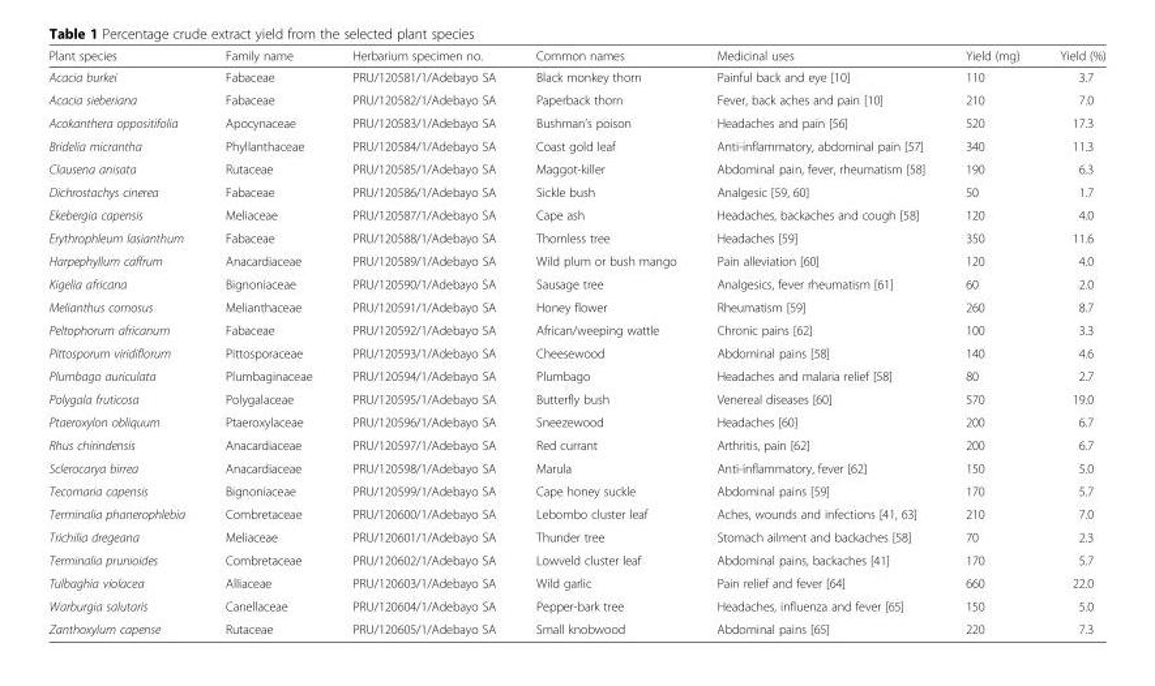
<table><thead><tr><td>Plant species</td><td>Family name</td><td>Herbarium specimen no.</td><td>Common names</td><td>Medicinal uses</td><td>Yield (mg)</td><td>Yield (%)</td></tr></thead><tbody><tr><td>Acacia burkei</td><td>Fabaceae</td><td>PRU/120581/1/Adebayo SA</td><td>Black monkey thorn</td><td>Painful back and eye [10]</td><td>110</td><td>3.7</td></tr><tr><td>Acacia sieberiana</td><td>Fabaceae</td><td>PRU/120582/1/Adebayo SA</td><td>Paperback thorn</td><td>Fever, back aches and pain [10]</td><td>210</td><td>7.0</td></tr><tr><td>Acokanthera oppositifolia</td><td>Apocynaceae</td><td>PRU/120583/1/Adebayo SA</td><td>Bushman’s poison</td><td>Headaches and pain [56]</td><td>520</td><td>17.3</td></tr><tr><td>Bridelia micrantha</td><td>Phyllanthaceae</td><td>PRU/120584/1/Adebayo SA</td><td>Coast gold leaf</td><td>Anti-inflammatory, abdominal pain [57]</td><td>340</td><td>11.3</td></tr><tr><td>Clausena anisata</td><td>Rutaceae</td><td>PRU/120585/1/Adebayo SA</td><td>Maggot-killer</td><td>Abdominal pain, fever, rheumatism [58]</td><td>190</td><td>6.3</td></tr><tr><td>Dichrostachys cinerea</td><td>Fabaceae</td><td>PRU/120586/1/Adebayo SA</td><td>Sickle bush</td><td>Analgesic [59, 60]</td><td>50</td><td>1.7</td></tr><tr><td>Ekebergia capensis</td><td>Meliaceae</td><td>PRU/120587/1/Adebayo SA</td><td>Cape ash</td><td>Headaches, backaches and cough [58]</td><td>120</td><td>4.0</td></tr><tr><td>Erythrophleum lasianthum</td><td>Fabaceae</td><td>PRU/120588/1/Adebayo SA</td><td>Thornless tree</td><td>Headaches [59]</td><td>350</td><td>11.6</td></tr><tr><td>Harpephyllum caffrum</td><td>Anacardiaceae</td><td>PRU/120589/1/Adebayo SA</td><td>Wild plum or bush mango</td><td>Pain alleviation [60]</td><td>120</td><td>4.0</td></tr><tr><td>Kigelia africana</td><td>Bignoniaceae</td><td>PRU/120590/1/Adebayo SA</td><td>Sausage tree</td><td>Analgesics, fever rheumatism [61]</td><td>60</td><td>2.0</td></tr><tr><td>Melianthus comosus</td><td>Melianthaceae</td><td>PRU/120591/1/Adebayo SA</td><td>Honey flower</td><td>Rheumatism [59]</td><td>260</td><td>8.7</td></tr><tr><td>Peltophorum africanum</td><td>Fabaceae</td><td>PRU/120592/1/Adebayo SA</td><td>African/weeping wattle</td><td>Chronic pains [62]</td><td>100</td><td>3.3</td></tr><tr><td>Pittosporum viridiflorum</td><td>Pittosporaceae</td><td>PRU/120593/1/Adebayo SA</td><td>Cheesewood</td><td>Abdominal pains [58]</td><td>140</td><td>4.6</td></tr><tr><td>Plumbago auriculata</td><td>Plumbaginaceae</td><td>PRU/120594/1/Adebayo SA</td><td>Plumbago</td><td>Headaches and malaria relief [58]</td><td>80</td><td>2.7</td></tr><tr><td>Polygala fruticosa</td><td>Polygalaceae</td><td>PRU/120595/1/Adebayo SA</td><td>Butterfly bush</td><td>Venereal diseases [60]</td><td>570</td><td>19.0</td></tr><tr><td>Ptaeroxylon obliquum</td><td>Ptaeroxylaceae</td><td>PRU/120596/1/Adebayo SA</td><td>Sneezewood</td><td>Headaches [60]</td><td>200</td><td>6.7</td></tr><tr><td>Rhus chirindensis</td><td>Anacardiaceae</td><td>PRU/120597/1/Adebayo SA</td><td>Red currant</td><td>Arthritis, pain [62]</td><td>200</td><td>6.7</td></tr><tr><td>Sclerocarya birrea</td><td>Anacardiaceae</td><td>PRU/120598/1/Adebayo SA</td><td>Marula</td><td>Anti-inflammatory, fever [62]</td><td>150</td><td>5.0</td></tr><tr><td>Tecomaria capensis</td><td>Bignoniaceae</td><td>PRU/120599/1/Adebayo SA</td><td>Cape honey suckle</td><td>Abdominal pains [59]</td><td>170</td><td>5.7</td></tr><tr><td>Terminalia phanerophlebia</td><td>Combretaceae</td><td>PRU/120600/1/Adebayo SA</td><td>Lebombo cluster leaf</td><td>Aches, wounds and infections [41, 63]</td><td>210</td><td>7.0</td></tr><tr><td>Trichilia dregeana</td><td>Meliaceae</td><td>PRU/120601/1/Adebayo SA</td><td>Thunder tree</td><td>Stomach ailment and backaches [58]</td><td>70</td><td>2.3</td></tr><tr><td>Terminalia prunioides</td><td>Combretaceae</td><td>PRU/120602/1/Adebayo SA</td><td>Lowveld cluster leaf</td><td>Abdominal pains, backaches [41]</td><td>170</td><td>5.7</td></tr><tr><td>Tulbaghia violacea</td><td>Alliaceae</td><td>PRU/120603/1/Adebayo SA</td><td>Wild garlic</td><td>Pain relief and fever [64]</td><td>660</td><td>22.0</td></tr><tr><td>Warburgia salutaris</td><td>Canellaceae</td><td>PRU/120604/1/Adebayo SA</td><td>Pepper-bark tree</td><td>Headaches, influenza and fever [65]</td><td>150</td><td>5.0</td></tr><tr><td>Zanthoxylum capense</td><td>Rutaceae</td><td>PRU/120605/1/Adebayo SA</td><td>Small knobwood</td><td>Abdominal pains [65]</td><td>220</td><td>7.3</td></tr></tbody></table>